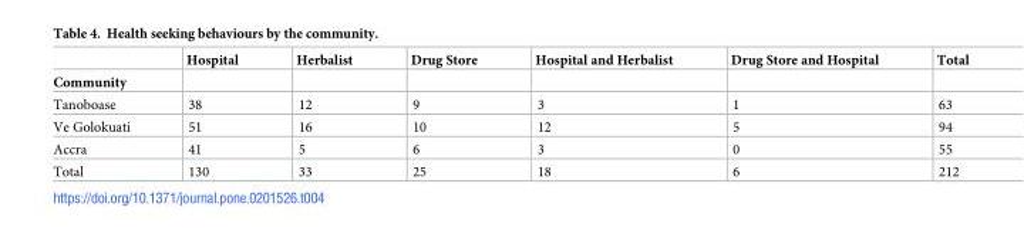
<table><thead><tr><td rowspan="2">Community</td><td rowspan="2">Hospital</td><td rowspan="2">Herbalist</td><td rowspan="2">Drug Store</td><td rowspan="2">Hospital and Herbalist</td><td rowspan="2">Drug Store and Hospital</td><td rowspan="2">Total</td></tr><tr></tr></thead><tbody><tr><td>Tanoboase</td><td>38</td><td>12</td><td>9</td><td>3</td><td>1</td><td>63</td></tr><tr><td>Ve Golokuati</td><td>51</td><td>16</td><td>10</td><td>12</td><td>5</td><td>94</td></tr><tr><td>Accra</td><td>41</td><td>5</td><td>6</td><td>3</td><td>0</td><td>55</td></tr><tr><td>Total</td><td>130</td><td>33</td><td>25</td><td>18</td><td>6</td><td>212</td></tr></tbody></table>